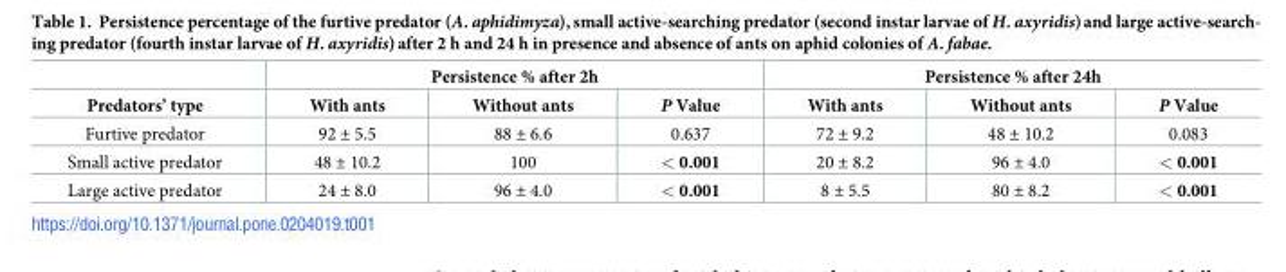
<table><thead><tr><td rowspan="2">Predators’ type</td><td colspan="3">Persistence % after 2h</td><td colspan="3">Persistence % after 24h</td></tr><tr><td>With ants</td><td>Without ants</td><td>P Value</td><td>With ants</td><td>Without ants</td><td>P Value</td></tr></thead><tbody><tr><td>Furtive predator</td><td>92 ± 5.5</td><td>88 ± 6.6</td><td>0.637</td><td>72 ± 9.2</td><td>48 ± 10.2</td><td>0.083</td></tr><tr><td>Small active predator</td><td>48 ± 10.2</td><td>100</td><td>&lt; 0.001</td><td>20 ± 8.2</td><td>96 ± 4.0</td><td>&lt; 0.001</td></tr><tr><td>Large active predator</td><td>24 ± 8.0</td><td>96 ± 4.0</td><td>&lt; 0.001</td><td>8 ± 5.5</td><td>80 ± 8.2</td><td>&lt; 0.001</td></tr></tbody></table>